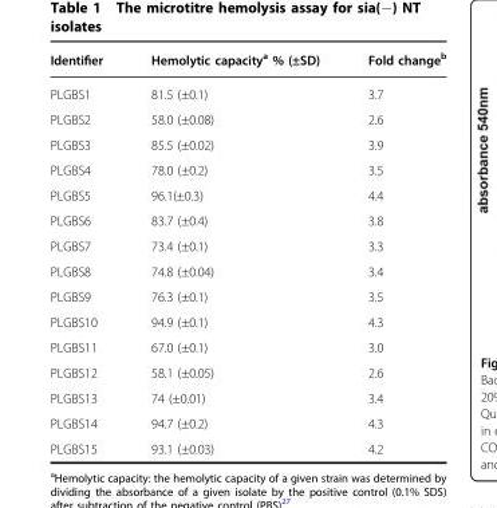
<table><thead><tr><td>Identifier</td><td>Hemolytic capacity<sup>a</sup> % (±SD)</td><td>Fold change<sup>b</sup></td></tr></thead><tbody><tr><td>PLGBS1</td><td>81.5 (±0.1)</td><td>3.7</td></tr><tr><td>PLGBS2</td><td>58.0 (±0.08)</td><td>2.6</td></tr><tr><td>PLGBS3</td><td>85.5 (±0.02)</td><td>3.9</td></tr><tr><td>PLGBS4</td><td>78.0 (±0.2)</td><td>3.5</td></tr><tr><td>PLGBS5</td><td>96.1(±0.3)</td><td>4.4</td></tr><tr><td>PLGBS6</td><td>83.7 (±0.4)</td><td>3.8</td></tr><tr><td>PLGBS7</td><td>73.4 (±0.1)</td><td>3.3</td></tr><tr><td>PLGBS8</td><td>74.8 (±0.04)</td><td>3.4</td></tr><tr><td>PLGBS9</td><td>76.3 (±0.1)</td><td>3.5</td></tr><tr><td>PLGBS10</td><td>94.9 (±0.1)</td><td>4.3</td></tr><tr><td>PLGBS11</td><td>67.0 (±0.1)</td><td>3.0</td></tr><tr><td>PLGBS12</td><td>58.1 (±0.05)</td><td>2.6</td></tr><tr><td>PLGBS13</td><td>74 (±0.01)</td><td>3.4</td></tr><tr><td>PLGBS14</td><td>94.7 (±0.2)</td><td>4.3</td></tr><tr><td>PLGBS15</td><td>93.1 (±0.03)</td><td>4.2</td></tr></tbody></table>